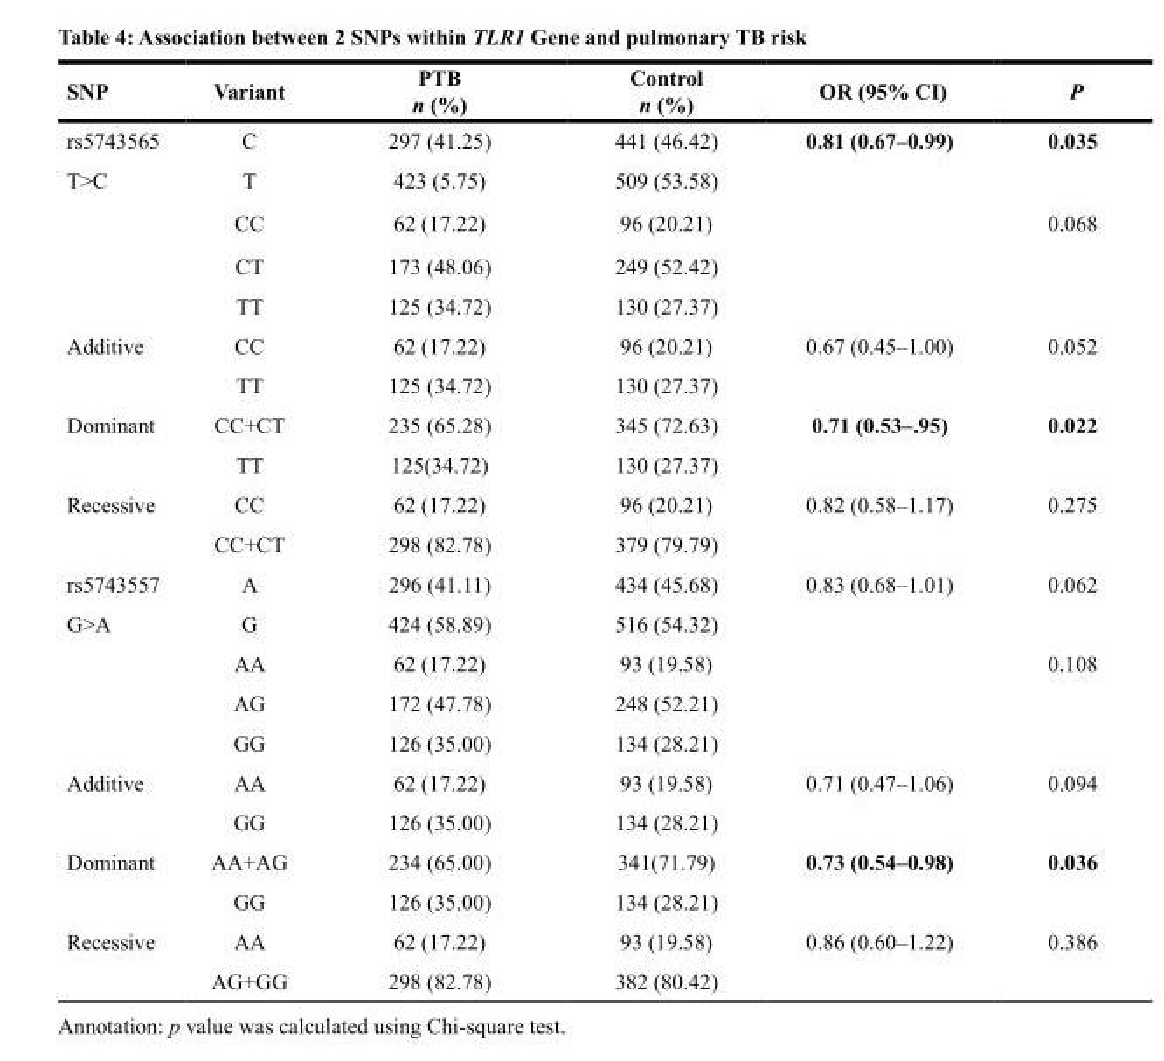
<table><thead><tr><td>SNP</td><td>Variant</td><td>PTB n (%)</td><td>Control n (%)</td><td>OR (95% CI)</td><td>P</td></tr></thead><tbody><tr><td>rs5743565</td><td>C</td><td>297 (41.25)</td><td>441 (46.42)</td><td>0.81 (0.67–0.99)</td><td>0.035</td></tr><tr><td rowspan="4">T&gt;C</td><td>T</td><td>423 (5.75)</td><td>509 (53.58)</td><td></td><td></td></tr><tr><td>CC</td><td>62 (17.22)</td><td>96 (20.21)</td><td></td><td>0.068</td></tr><tr><td>CT</td><td>173 (48.06)</td><td>249 (52.42)</td><td></td><td></td></tr><tr><td>TT</td><td>125 (34.72)</td><td>130 (27.37)</td><td></td><td></td></tr><tr><td rowspan="2">Additive</td><td>CC</td><td>62 (17.22)</td><td>96 (20.21)</td><td>0.67 (0.45–1.00)</td><td>0.052</td></tr><tr><td>TT</td><td>125 (34.72)</td><td>130 (27.37)</td><td></td><td></td></tr><tr><td rowspan="2">Dominant</td><td>CC+CT</td><td>235 (65.28)</td><td>345 (72.63)</td><td>0.71 (0.53–.95)</td><td>0.022</td></tr><tr><td>TT</td><td>125(34.72)</td><td>130 (27.37)</td><td></td><td></td></tr><tr><td rowspan="2">Recessive</td><td>CC</td><td>62 (17.22)</td><td>96 (20.21)</td><td>0.82 (0.58–1.17)</td><td>0.275</td></tr><tr><td>CC+CT</td><td>298 (82.78)</td><td>379 (79.79)</td><td></td><td></td></tr><tr><td>rs5743557</td><td>A</td><td>296 (41.11)</td><td>434 (45.68)</td><td>0.83 (0.68–1.01)</td><td>0.062</td></tr><tr><td rowspan="4">G&gt;A</td><td>G</td><td>424 (58.89)</td><td>516 (54.32)</td><td></td><td></td></tr><tr><td>AA</td><td>62 (17.22)</td><td>93 (19.58)</td><td></td><td>0.108</td></tr><tr><td>AG</td><td>172 (47.78)</td><td>248 (52.21)</td><td></td><td></td></tr><tr><td>GG</td><td>126 (35.00)</td><td>134 (28.21)</td><td></td><td></td></tr><tr><td rowspan="2">Additive</td><td>AA</td><td>62 (17.22)</td><td>93 (19.58)</td><td>0.71 (0.47–1.06)</td><td>0.094</td></tr><tr><td>GG</td><td>126 (35.00)</td><td>134 (28.21)</td><td></td><td></td></tr><tr><td rowspan="2">Dominant</td><td>AA+AG</td><td>234 (65.00)</td><td>341(71.79)</td><td>0.73 (0.54–0.98)</td><td>0.036</td></tr><tr><td>GG</td><td>126 (35.00)</td><td>134 (28.21)</td><td></td><td></td></tr><tr><td rowspan="2">Recessive</td><td>AA</td><td>62 (17.22)</td><td>93 (19.58)</td><td>0.86 (0.60–1.22)</td><td>0.386</td></tr><tr><td>AG+GG</td><td>298 (82.78)</td><td>382 (80.42)</td><td></td><td></td></tr></tbody></table>